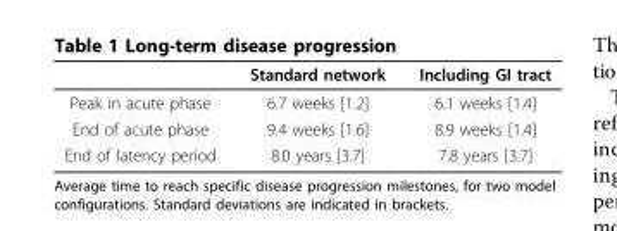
<table><thead><tr><td></td><td>Standard network</td><td>Including GI tract</td></tr></thead><tbody><tr><td>Peak in acute phase</td><td>6.7 weeks [1.2]</td><td>6.1 weeks [1.4]</td></tr><tr><td>End of acute phase</td><td>9.4 weeks [1.6]</td><td>8.9 weeks [1.4]</td></tr><tr><td>End of latency period</td><td>8.0 years [3.7]</td><td>7.8 years [3.7]</td></tr></tbody></table>